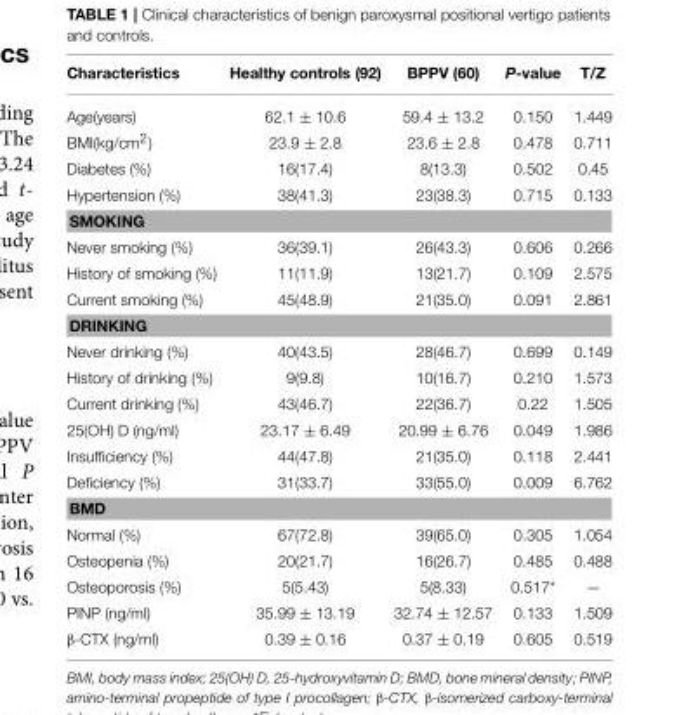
<table><thead><tr><td>Characteristics</td><td>Healthy controls (92)</td><td>BPPV (60)</td><td>P-value</td><td>T/Z</td></tr></thead><tbody><tr><td>Age(years)</td><td>62.1 ± 10.6</td><td>59.4 ± 13.2</td><td>0.150</td><td>1.449</td></tr><tr><td>BMI(kg/cm<sup>2</sup>)</td><td>23.9 ± 2.8</td><td>23.6 ± 2.8</td><td>0.478</td><td>0.711</td></tr><tr><td>Diabetes (%)</td><td>16(17.4)</td><td>8(13.3)</td><td>0.502</td><td>0.45</td></tr><tr><td>Hypertension (%)</td><td>38(41.3)</td><td>23(38.3)</td><td>0.715</td><td>0.133</td></tr><tr><td colspan="5">SMOKING</td></tr><tr><td>Never smoking (%)</td><td>36(39.1)</td><td>26(43.3)</td><td>0.606</td><td>0.266</td></tr><tr><td>History of smoking (%)</td><td>11(11.9)</td><td>13(21.7)</td><td>0.109</td><td>2.575</td></tr><tr><td>Current smoking (%)</td><td>45(48.9)</td><td>21(35.0)</td><td>0.091</td><td>2.861</td></tr><tr><td colspan="5">DRINKING</td></tr><tr><td>Never drinking (%)</td><td>40(43.5)</td><td>28(46.7)</td><td>0.699</td><td>0.149</td></tr><tr><td>History of drinking (%)</td><td>9(9.8)</td><td>10(16.7)</td><td>0.210</td><td>1.573</td></tr><tr><td>Current drinking (%)</td><td>43(46.7)</td><td>22(36.7)</td><td>0.22</td><td>1.505</td></tr><tr><td>25(OH) D (ng/ml)</td><td>23.17 ± 6.49</td><td>20.99 ± 6.76</td><td>0.049</td><td>1.986</td></tr><tr><td>Insufficiency (%)</td><td>44(47.8)</td><td>21(35.0)</td><td>0.118</td><td>2.441</td></tr><tr><td>Deficiency (%)</td><td>31(33.7)</td><td>33(55.0)</td><td>0.009</td><td>6.762</td></tr><tr><td colspan="5">BMD</td></tr><tr><td>Normal (%)</td><td>67(72.8)</td><td>39(65.0)</td><td>0.305</td><td>1.054</td></tr><tr><td>Osteopenia (%)</td><td>20(21.7)</td><td>16(26.7)</td><td>0.485</td><td>0.488</td></tr><tr><td>Osteoporosis (%)</td><td>5(5.43)</td><td>5(8.33)</td><td>0.517*</td><td>—</td></tr><tr><td>PINP (ng/ml)</td><td>35.99 ± 13.19</td><td>32.74 ± 12.57</td><td>0.133</td><td>1.509</td></tr><tr><td>β-CTX (ng/ml)</td><td>0.39 ± 0.16</td><td>0.37 ± 0.19</td><td>0.605</td><td>0.519</td></tr></tbody></table>